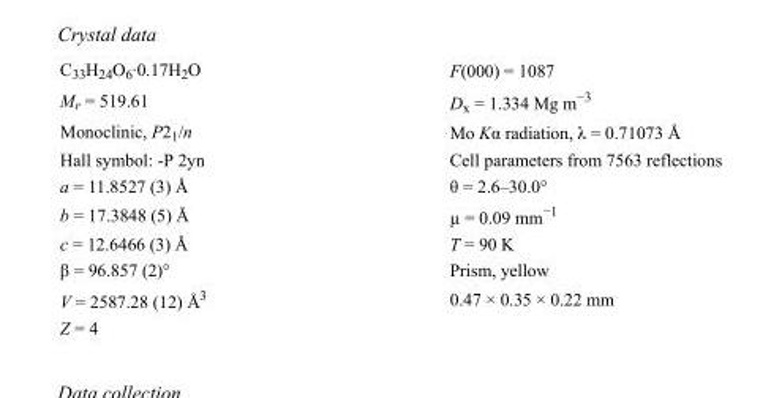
<table><tbody><tr><td>C<sub>33</sub>H<sub>24</sub>O<sub>6</sub>·0.17H<sub>2</sub>O</td><td>F(000) = 1087</td></tr><tr><td>M<sub>r</sub> = 519.61</td><td>D<sub>x</sub> = 1.334 Mg m<sup>−3</sup></td></tr><tr><td>Monoclinic, P2<sub>1</sub>/n</td><td>Mo Kα radiation, λ = 0.71073 Å</td></tr><tr><td>Hall symbol: -P 2yn</td><td>Cell parameters from 7563 reflections</td></tr><tr><td>a = 11.8527 (3) Å</td><td>θ = 2.6–30.0°</td></tr><tr><td>b = 17.3848 (5) Å</td><td>µ = 0.09 mm<sup>−1</sup></td></tr><tr><td>c = 12.6466 (3) Å</td><td>T = 90 K</td></tr><tr><td>β = 96.857 (2)°</td><td>Prism, yellow</td></tr><tr><td>V = 2587.28 (12) Å<sup>3</sup></td><td>0.47 × 0.35 × 0.22 mm</td></tr><tr><td>Z = 4</td><td></td></tr></tbody></table>